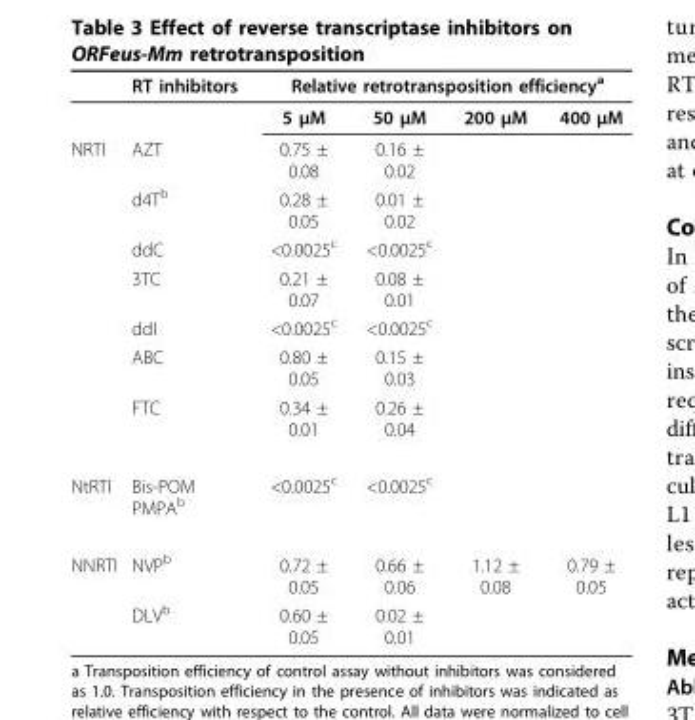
<table><thead><tr><td rowspan="2"></td><td rowspan="2">RT inhibitors</td><td colspan="4">Relative retrotransposition efficiency<sup>a</sup></td></tr><tr><td>5 μM</td><td>50 μM</td><td>200 μM</td><td>400 μM</td></tr></thead><tbody><tr><td rowspan="7">NRTI</td><td>AZT</td><td>0.75 ± 0.08</td><td>0.16 ± 0.02</td><td></td><td></td></tr><tr><td>d4T<sup>b</sup></td><td>0.28 ± 0.05</td><td>0.01 ± 0.02</td><td></td><td></td></tr><tr><td>ddC</td><td>&lt;0.0025<sup>c</sup></td><td>&lt;0.0025<sup>c</sup></td><td></td><td></td></tr><tr><td>3TC</td><td>0.21 ± 0.07</td><td>0.08 ± 0.01</td><td></td><td></td></tr><tr><td>ddI</td><td>&lt;0.0025<sup>c</sup></td><td>&lt;0.0025<sup>c</sup></td><td></td><td></td></tr><tr><td>ABC</td><td>0.80 ± 0.05</td><td>0.15 ± 0.03</td><td></td><td></td></tr><tr><td>FTC</td><td>0.34 ± 0.01</td><td>0.26 ± 0.04</td><td></td><td></td></tr><tr><td>NtRTI</td><td>Bis-POM PMPA<sup>b</sup></td><td>&lt;0.0025<sup>c</sup></td><td>&lt;0.0025<sup>c</sup></td><td></td><td></td></tr><tr><td rowspan="2">NNRTI</td><td>NVP<sup>b</sup></td><td>0.72 ± 0.05</td><td>0.66 ± 0.06</td><td>1.12 ± 0.08</td><td>0.79 ± 0.05</td></tr><tr><td>DLV<sup>b</sup></td><td>0.60 ± 0.05</td><td>0.02 ± 0.01</td><td></td><td></td></tr></tbody></table>